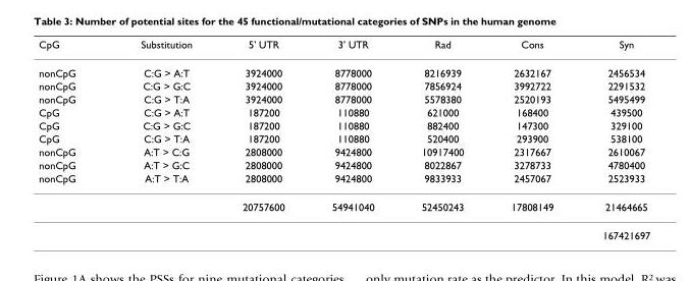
<table><thead><tr><td>CpG</td><td>Substitution</td><td>5&#x27; UTR</td><td>3&#x27; UTR</td><td>Rad</td><td>Cons</td><td>Syn</td></tr></thead><tbody><tr><td>nonCpG</td><td>C:G &gt; A:T</td><td>3924000</td><td>8778000</td><td>8216939</td><td>2632167</td><td>2456534</td></tr><tr><td>nonCpG</td><td>C:G &gt; G:C</td><td>3924000</td><td>8778000</td><td>7856924</td><td>3992722</td><td>2291532</td></tr><tr><td>nonCpG</td><td>C:G &gt; T:A</td><td>3924000</td><td>8778000</td><td>5578380</td><td>2520193</td><td>5495499</td></tr><tr><td>CpG</td><td>C:G &gt; A:T</td><td>187200</td><td>110880</td><td>621000</td><td>168400</td><td>439500</td></tr><tr><td>CpG</td><td>C:G &gt; G:C</td><td>187200</td><td>110880</td><td>882400</td><td>147300</td><td>329100</td></tr><tr><td>CpG</td><td>C:G &gt; T:A</td><td>187200</td><td>110880</td><td>520400</td><td>293900</td><td>538100</td></tr><tr><td>nonCpG</td><td>A:T &gt; C:G</td><td>2808000</td><td>9424800</td><td>10917400</td><td>2317667</td><td>2610067</td></tr><tr><td>nonCpG</td><td>A:T &gt; G:C</td><td>2808000</td><td>9424800</td><td>8022867</td><td>3278733</td><td>4780400</td></tr><tr><td rowspan="3">nonCpG</td><td>A:T &gt; T:A</td><td>2808000</td><td>9424800</td><td>9833933</td><td>2457067</td><td>2523933</td></tr><tr><td></td><td>20757600</td><td>54941040</td><td>52450243</td><td>17808149</td><td>21464665</td></tr><tr><td></td><td></td><td></td><td></td><td></td><td>167421697</td></tr></tbody></table>